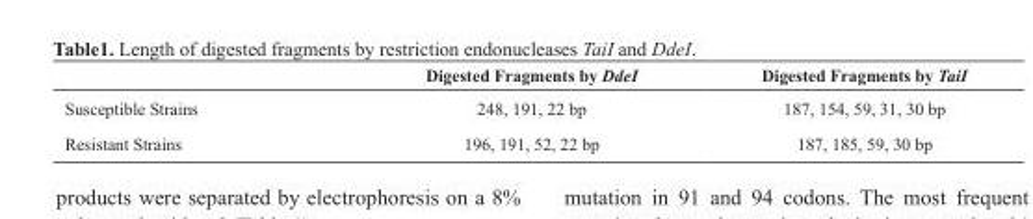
<table><thead><tr><td></td><td>Digested Fragments by DdeI</td><td>Digested Fragments by TaiI</td></tr></thead><tbody><tr><td>Susceptible Strains</td><td>248, 191, 22 bp</td><td>187, 154, 59, 31, 30 bp</td></tr><tr><td>Resistant Strains</td><td>196, 191, 52, 22 bp</td><td>187, 185, 59, 30 bp</td></tr></tbody></table>